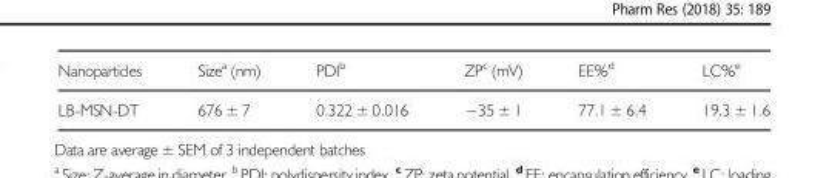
<table><thead><tr><td>Nanoparticles</td><td>Size<sup>a</sup> (nm)</td><td>PDI<sup>b</sup></td><td>ZP<sup>c</sup> (mV)</td><td>EE%<sup>d</sup></td><td>LC%<sup>e</sup></td></tr></thead><tbody><tr><td>LB-MSN-DT</td><td>676 ± 7</td><td>0.322 ± 0.016</td><td>−35 ± 1</td><td>77.1 ± 6.4</td><td>19.3 ± 1.6</td></tr></tbody></table>